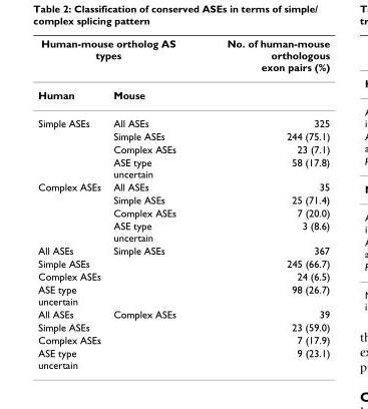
<table><thead><tr><td colspan="2">Human-mouse ortholog AS types</td><td rowspan="2">No. of human-mouse orthologous exon pairs (%)</td></tr><tr><td>Human</td><td>Mouse</td></tr></thead><tbody><tr><td rowspan="4">Simple ASEs</td><td>All ASEs</td><td>325</td></tr><tr><td>Simple ASEs</td><td>244 (75.1)</td></tr><tr><td>Complex ASEs</td><td>23 (7.1)</td></tr><tr><td>ASE type uncertain</td><td>58 (17.8)</td></tr><tr><td rowspan="4">Complex ASEs</td><td>All ASEs</td><td>35</td></tr><tr><td>Simple ASEs</td><td>25 (71.4)</td></tr><tr><td>Complex ASEs</td><td>7 (20.0)</td></tr><tr><td>ASE type uncertain</td><td>3 (8.6)</td></tr><tr><td>All ASEs</td><td>Simple ASEs</td><td>367</td></tr><tr><td>Simple ASEs</td><td></td><td>245 (66.7)</td></tr><tr><td>Complex ASEs</td><td></td><td>24 (6.5)</td></tr><tr><td>ASE type uncertain</td><td></td><td>98 (26.7)</td></tr><tr><td>All ASEs</td><td>Complex ASEs</td><td>39</td></tr><tr><td>Simple ASEs</td><td></td><td>23 (59.0)</td></tr><tr><td>Complex ASEs</td><td></td><td>7 (17.9)</td></tr><tr><td>ASE type uncertain</td><td></td><td>9 (23.1)</td></tr></tbody></table>